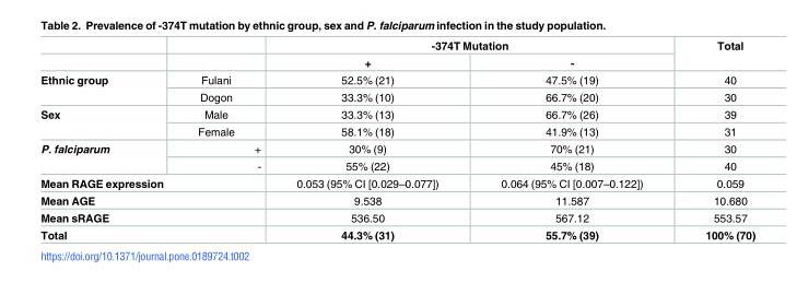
<table><thead><tr><td rowspan="2"></td><td rowspan="2"></td><td colspan="2">-374T Mutation</td><td rowspan="2">Total</td></tr><tr><td>+</td><td>-</td></tr></thead><tbody><tr><td rowspan="2">Ethnic group</td><td>Fulani</td><td>52.5% (21)</td><td>47.5% (19)</td><td>40</td></tr><tr><td>Dogon</td><td>33.3% (10)</td><td>66.7% (20)</td><td>30</td></tr><tr><td rowspan="2">Sex</td><td>Male</td><td>33.3% (13)</td><td>66.7% (26)</td><td>39</td></tr><tr><td>Female</td><td>58.1% (18)</td><td>41.9% (13)</td><td>31</td></tr><tr><td rowspan="2">P. falciparum</td><td>+</td><td>30% (9)</td><td>70% (21)</td><td>30</td></tr><tr><td>-</td><td>55% (22)</td><td>45% (18)</td><td>40</td></tr><tr><td colspan="2">Mean RAGE expression</td><td>0.053 (95% CI [0.029–0.077])</td><td>0.064 (95% CI [0.007–0.122])</td><td>0.059</td></tr><tr><td colspan="2">Mean AGE</td><td>9.538</td><td>11.587</td><td>10.680</td></tr><tr><td colspan="2">Mean sRAGE</td><td>536.50</td><td>567.12</td><td>553.57</td></tr><tr><td colspan="2">Total</td><td>44.3% (31)</td><td>55.7% (39)</td><td>100% (70)</td></tr></tbody></table>